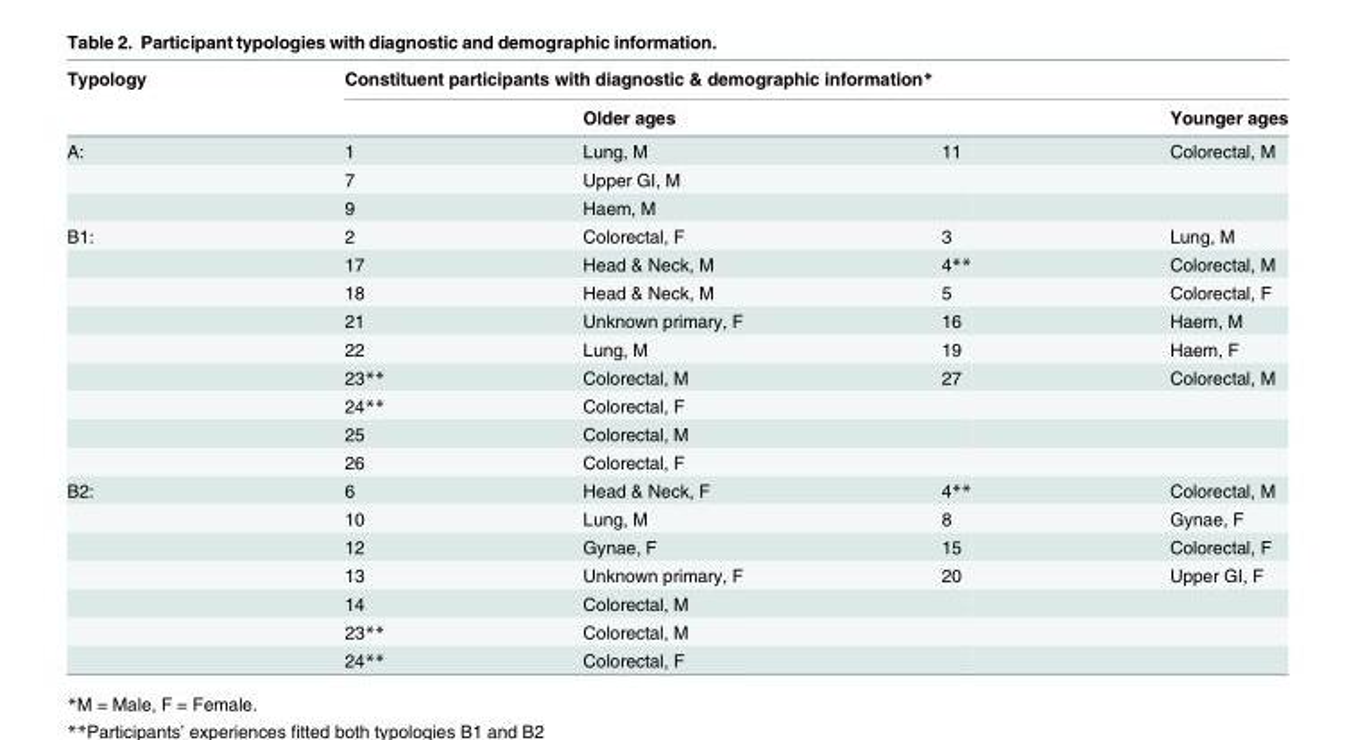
<table><thead><tr><td rowspan="2">Typology</td><td colspan="4">Constituent participants with diagnostic &amp; demographic information*</td></tr><tr><td></td><td>Older ages</td><td></td><td>Younger ages</td></tr></thead><tbody><tr><td rowspan="3">A:</td><td>1</td><td>Lung, M</td><td>11</td><td>Colorectal, M</td></tr><tr><td>7</td><td>Upper GI, M</td><td></td><td></td></tr><tr><td>9</td><td>Haem, M</td><td></td><td></td></tr><tr><td rowspan="9">B1:</td><td>2</td><td>Colorectal, F</td><td>3</td><td>Lung, M</td></tr><tr><td>17</td><td>Head &amp; Neck, M</td><td>4**</td><td>Colorectal, M</td></tr><tr><td>18</td><td>Head &amp; Neck, M</td><td>5</td><td>Colorectal, F</td></tr><tr><td>21</td><td>Unknown primary, F</td><td>16</td><td>Haem, M</td></tr><tr><td>22</td><td>Lung, M</td><td>19</td><td>Haem, F</td></tr><tr><td>23**</td><td>Colorectal, M</td><td>27</td><td>Colorectal, M</td></tr><tr><td>24**</td><td>Colorectal, F</td><td></td><td></td></tr><tr><td>25</td><td>Colorectal, M</td><td></td><td></td></tr><tr><td>26</td><td>Colorectal, F</td><td></td><td></td></tr><tr><td rowspan="7">B2:</td><td>6</td><td>Head &amp; Neck, F</td><td>4**</td><td>Colorectal, M</td></tr><tr><td>10</td><td>Lung, M</td><td>8</td><td>Gynae, F</td></tr><tr><td>12</td><td>Gynae, F</td><td>15</td><td>Colorectal, F</td></tr><tr><td>13</td><td>Unknown primary, F</td><td>20</td><td>Upper GI, F</td></tr><tr><td>14</td><td>Colorectal, M</td><td></td><td></td></tr><tr><td>23**</td><td>Colorectal, M</td><td></td><td></td></tr><tr><td>24**</td><td>Colorectal, F</td><td></td><td></td></tr></tbody></table>